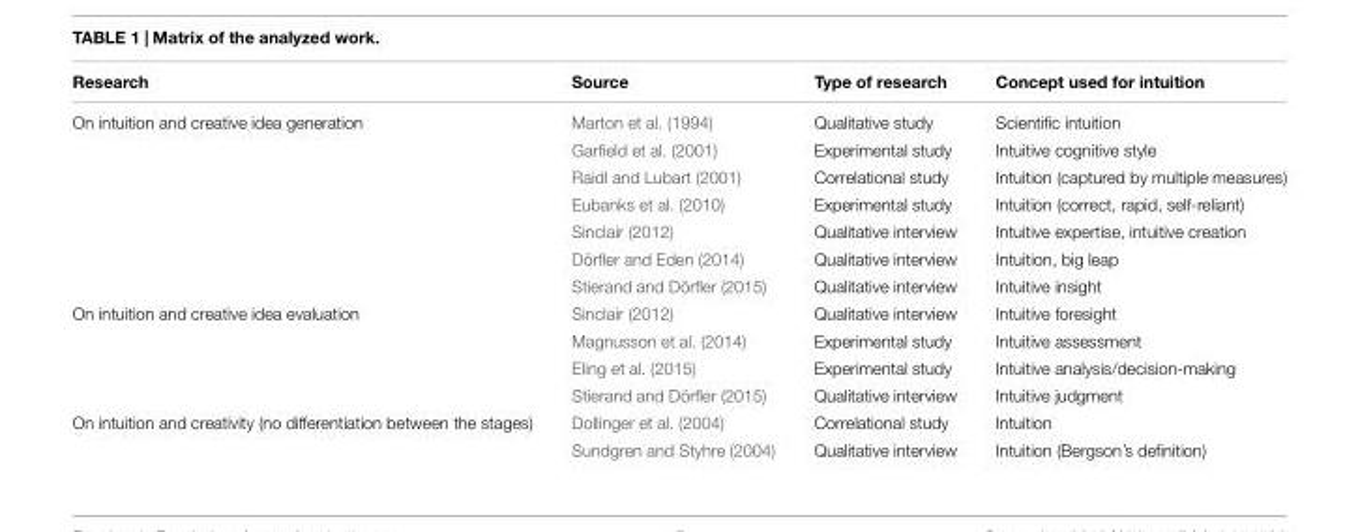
<table><thead><tr><td>Research</td><td>Source</td><td>Type of research</td><td>Concept used for intuition</td></tr></thead><tbody><tr><td rowspan="7">On intuition and creative idea generation</td><td>Marton et al. (1994)</td><td>Qualitative study</td><td>Scientific intuition</td></tr><tr><td>Garfield et al. (2001)</td><td>Experimental study</td><td>Intuitive cognitive style</td></tr><tr><td>Raidl and Lubart (2001)</td><td>Correlational study</td><td>Intuition (captured by multiple measures)</td></tr><tr><td>Eubanks et al. (2010)</td><td>Experimental study</td><td>Intuition (correct, rapid, self-reliant)</td></tr><tr><td>Sinclair (2012)</td><td>Qualitative interview</td><td>Intuitive expertise, intuitive creation</td></tr><tr><td>Dörfler and Eden (2014)</td><td>Qualitative interview</td><td>Intuition, big leap</td></tr><tr><td>Stierand and Dörfler (2015)</td><td>Qualitative interview</td><td>Intuitive insight</td></tr><tr><td rowspan="4">On intuition and creative idea evaluation</td><td>Sinclair (2012)</td><td>Qualitative interview</td><td>Intuitive foresight</td></tr><tr><td>Magnusson et al. (2014)</td><td>Experimental study</td><td>Intuitive assessment</td></tr><tr><td>Eling et al. (2015)</td><td>Experimental study</td><td>Intuitive analysis/decision-making</td></tr><tr><td>Stierand and Dörfler (2015)</td><td>Qualitative interview</td><td>Intuitive judgment</td></tr><tr><td rowspan="2">On intuition and creativity (no differentiation between the stages)</td><td>Dollinger et al. (2004)</td><td>Correlational study</td><td>Intuition</td></tr><tr><td>Sundgren and Styhre (2004)</td><td>Qualitative interview</td><td>Intuition (Bergson’s definition)</td></tr></tbody></table>